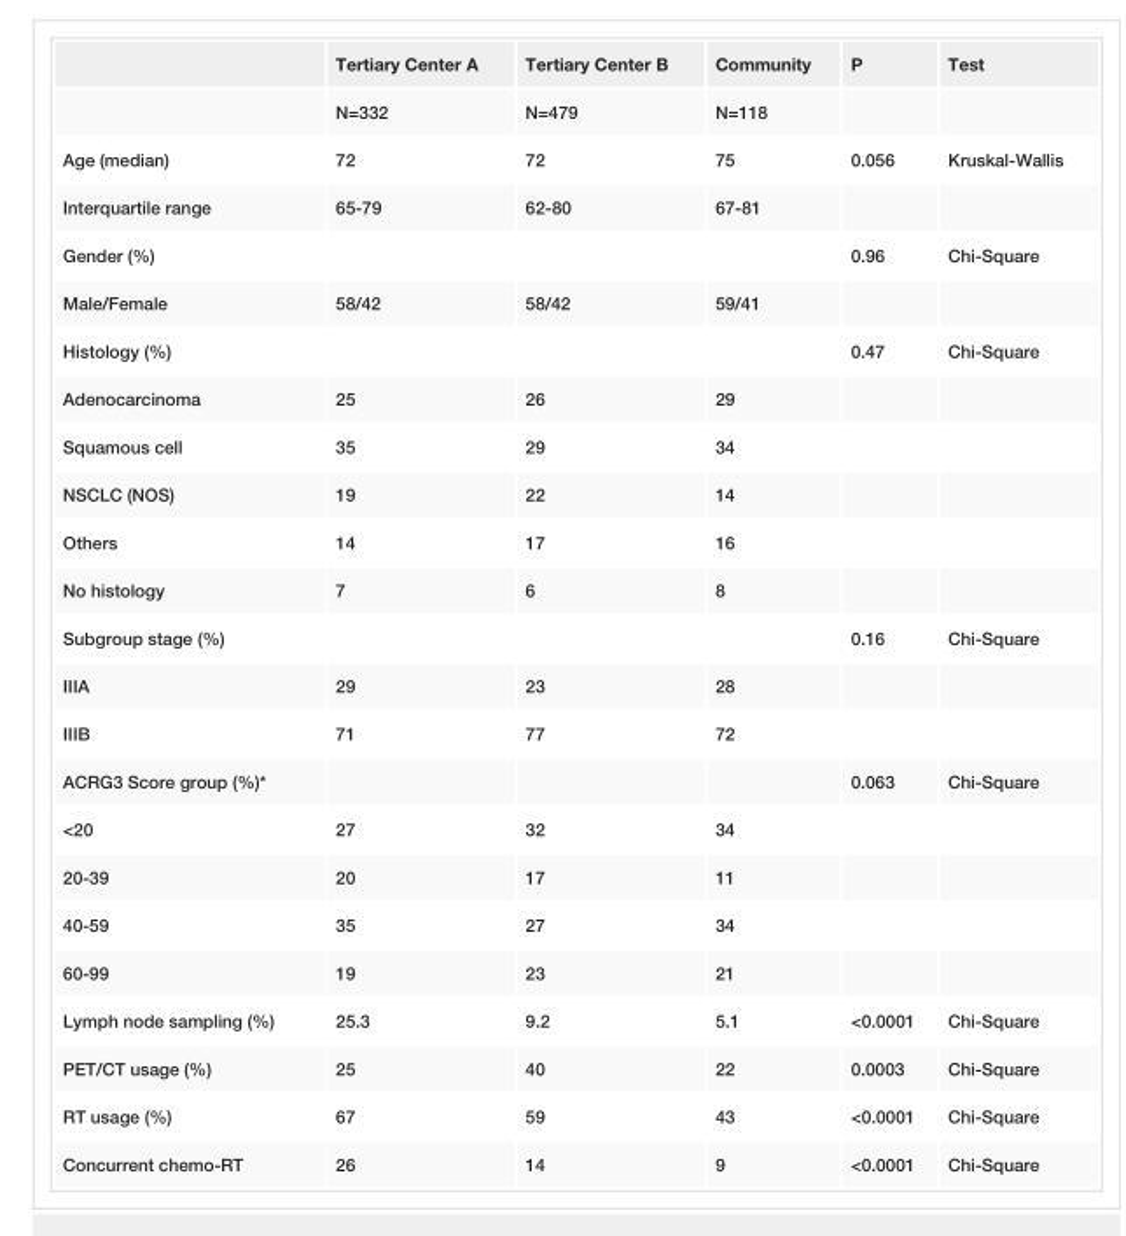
<table><thead><tr><td></td><td>Tertiary Center A</td><td>Tertiary Center B</td><td>Community</td><td>P</td><td>Test</td></tr></thead><tbody><tr><td></td><td>N=332</td><td>N=479</td><td>N=118</td><td></td><td></td></tr><tr><td>Age (median)</td><td>72</td><td>72</td><td>75</td><td>0.056</td><td>Kruskal-Wallis</td></tr><tr><td>Interquartile range</td><td>65-79</td><td>62-80</td><td>67-81</td><td></td><td></td></tr><tr><td>Gender (%)</td><td></td><td></td><td></td><td>0.96</td><td>Chi-Square</td></tr><tr><td>Male/Female</td><td>58/42</td><td>58/42</td><td>59/41</td><td></td><td></td></tr><tr><td>Histology (%)</td><td></td><td></td><td></td><td>0.47</td><td>Chi-Square</td></tr><tr><td>Adenocarcinoma</td><td>25</td><td>26</td><td>29</td><td></td><td></td></tr><tr><td>Squamous cell</td><td>35</td><td>29</td><td>34</td><td></td><td></td></tr><tr><td>NSCLC (NOS)</td><td>19</td><td>22</td><td>14</td><td></td><td></td></tr><tr><td>Others</td><td>14</td><td>17</td><td>16</td><td></td><td></td></tr><tr><td>No histology</td><td>7</td><td>6</td><td>8</td><td></td><td></td></tr><tr><td>Subgroup stage (%)</td><td></td><td></td><td></td><td>0.16</td><td>Chi-Square</td></tr><tr><td>IIIA</td><td>29</td><td>23</td><td>28</td><td></td><td></td></tr><tr><td>IIIB</td><td>71</td><td>77</td><td>72</td><td></td><td></td></tr><tr><td>ACRG3 Score group (%)*</td><td></td><td></td><td></td><td>0.063</td><td>Chi-Square</td></tr><tr><td>&lt;20</td><td>27</td><td>32</td><td>34</td><td></td><td></td></tr><tr><td>20-39</td><td>20</td><td>17</td><td>11</td><td></td><td></td></tr><tr><td>40-59</td><td>35</td><td>27</td><td>34</td><td></td><td></td></tr><tr><td>60-99</td><td>19</td><td>23</td><td>21</td><td></td><td></td></tr><tr><td>Lymph node sampling (%)</td><td>25.3</td><td>9.2</td><td>5.1</td><td>&lt;0.0001</td><td>Chi-Square</td></tr><tr><td>PET/CT usage (%)</td><td>25</td><td>40</td><td>22</td><td>0.0003</td><td>Chi-Square</td></tr><tr><td>RT usage (%)</td><td>67</td><td>59</td><td>43</td><td>&lt;0.0001</td><td>Chi-Square</td></tr><tr><td>Concurrent chemo-RT</td><td>26</td><td>14</td><td>9</td><td>&lt;0.0001</td><td>Chi-Square</td></tr></tbody></table>